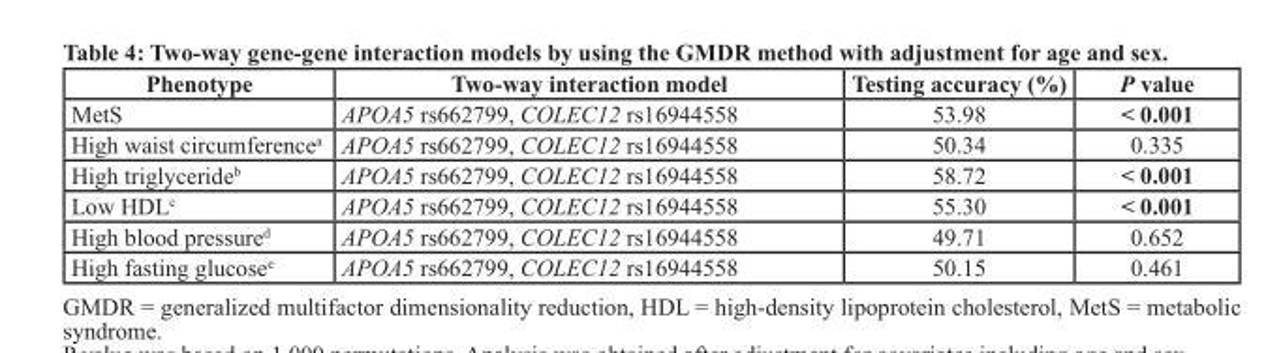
<table><thead><tr><td>Phenotype</td><td>Two-way interaction model</td><td>Testing accuracy (%)</td><td>P value</td></tr></thead><tbody><tr><td>MetS</td><td>APOA5 rs662799, COLEC12 rs16944558</td><td>53.98</td><td>&lt; 0.001</td></tr><tr><td>High waist circumference<sup>a</sup></td><td>APOA5 rs662799, COLEC12 rs16944558</td><td>50.34</td><td>0.335</td></tr><tr><td>High triglyceride<sup>b</sup></td><td>APOA5 rs662799, COLEC12 rs16944558</td><td>58.72</td><td>&lt; 0.001</td></tr><tr><td>Low HDL<sup>c</sup></td><td>APOA5 rs662799, COLEC12 rs16944558</td><td>55.30</td><td>&lt; 0.001</td></tr><tr><td>High blood pressure<sup>d</sup></td><td>APOA5 rs662799, COLEC12 rs16944558</td><td>49.71</td><td>0.652</td></tr><tr><td>High fasting glucose<sup>e</sup></td><td>APOA5 rs662799, COLEC12 rs16944558</td><td>50.15</td><td>0.461</td></tr></tbody></table>